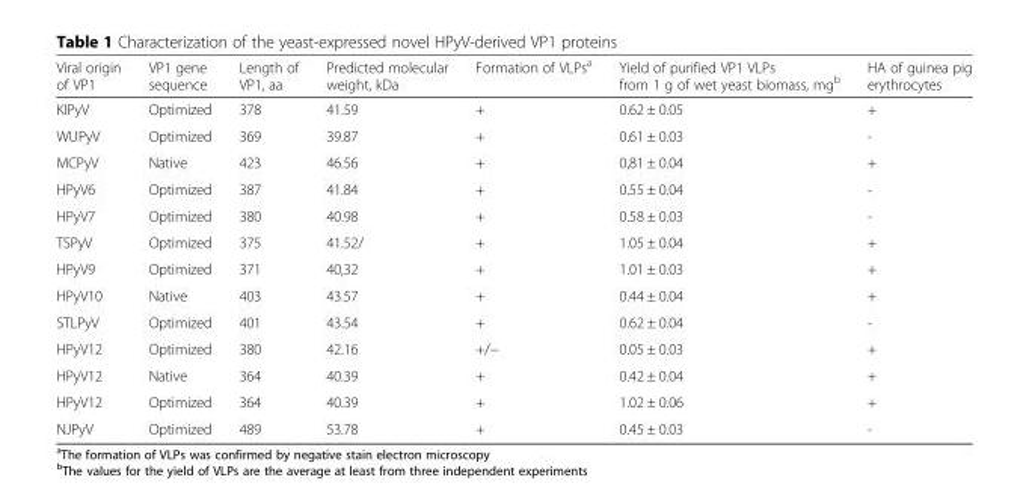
<table><thead><tr><td>Viral origin of VP1</td><td>VP1 gene sequence</td><td>Length of VP1, aa</td><td>Predicted molecular weight, kDa</td><td>Formation of VLPs<sup>a</sup></td><td>Yield of purified VP1 VLPs from 1 g of wet yeast biomass, mg<sup>b</sup></td><td>HA of guinea pig erythrocytes</td></tr></thead><tbody><tr><td>KIPyV</td><td>Optimized</td><td>378</td><td>41.59</td><td>+</td><td>0.62 ± 0.05</td><td>+</td></tr><tr><td>WUPyV</td><td>Optimized</td><td>369</td><td>39.87</td><td>+</td><td>0.61 ± 0.03</td><td>-</td></tr><tr><td>MCPyV</td><td>Native</td><td>423</td><td>46.56</td><td>+</td><td>0,81 ± 0.04</td><td>+</td></tr><tr><td>HPyV6</td><td>Optimized</td><td>387</td><td>41.84</td><td>+</td><td>0.55 ± 0.04</td><td>-</td></tr><tr><td>HPyV7</td><td>Optimized</td><td>380</td><td>40.98</td><td>+</td><td>0.58 ± 0.03</td><td>-</td></tr><tr><td>TSPyV</td><td>Optimized</td><td>375</td><td>41.52/</td><td>+</td><td>1.05 ± 0.04</td><td>+</td></tr><tr><td>HPyV9</td><td>Optimized</td><td>371</td><td>40,32</td><td>+</td><td>1.01 ± 0.03</td><td>+</td></tr><tr><td>HPyV10</td><td>Native</td><td>403</td><td>43.57</td><td>+</td><td>0.44 ± 0.04</td><td>+</td></tr><tr><td>STLPyV</td><td>Optimized</td><td>401</td><td>43.54</td><td>+</td><td>0.62 ± 0.04</td><td>-</td></tr><tr><td>HPyV12</td><td>Optimized</td><td>380</td><td>42.16</td><td>+/−</td><td>0.05 ± 0.03</td><td>+</td></tr><tr><td>HPyV12</td><td>Native</td><td>364</td><td>40.39</td><td>+</td><td>0.42 ± 0.04</td><td>+</td></tr><tr><td>HPyV12</td><td>Optimized</td><td>364</td><td>40.39</td><td>+</td><td>1.02 ± 0.06</td><td>+</td></tr><tr><td>NJPyV</td><td>Optimized</td><td>489</td><td>53.78</td><td>+</td><td>0.45 ± 0.03</td><td>-</td></tr></tbody></table>